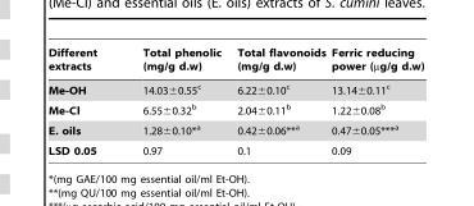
<table><thead><tr><td>Different extracts</td><td>Total phenolic (mg/g d.w)</td><td>Total flavonoids (mg/g d.w)</td><td>Ferric reducing power (µg/g d.w)</td></tr></thead><tbody><tr><td>Me-OH</td><td>14.03±0.55<sup>c</sup></td><td>6.22±0.10<sup>c</sup></td><td>13.14±0.11<sup>c</sup></td></tr><tr><td>Me-Cl</td><td>6.55±0.32<sup>b</sup></td><td>2.04±0.11<sup>b</sup></td><td>1.22±0.08<sup>b</sup></td></tr><tr><td>E. oils</td><td>1.28±0.10*<sup>a</sup></td><td>0.42±0.06**<sup>a</sup></td><td>0.47±0.05***<sup>a</sup></td></tr><tr><td>LSD 0.05</td><td>0.97</td><td>0.1</td><td>0.09</td></tr></tbody></table>